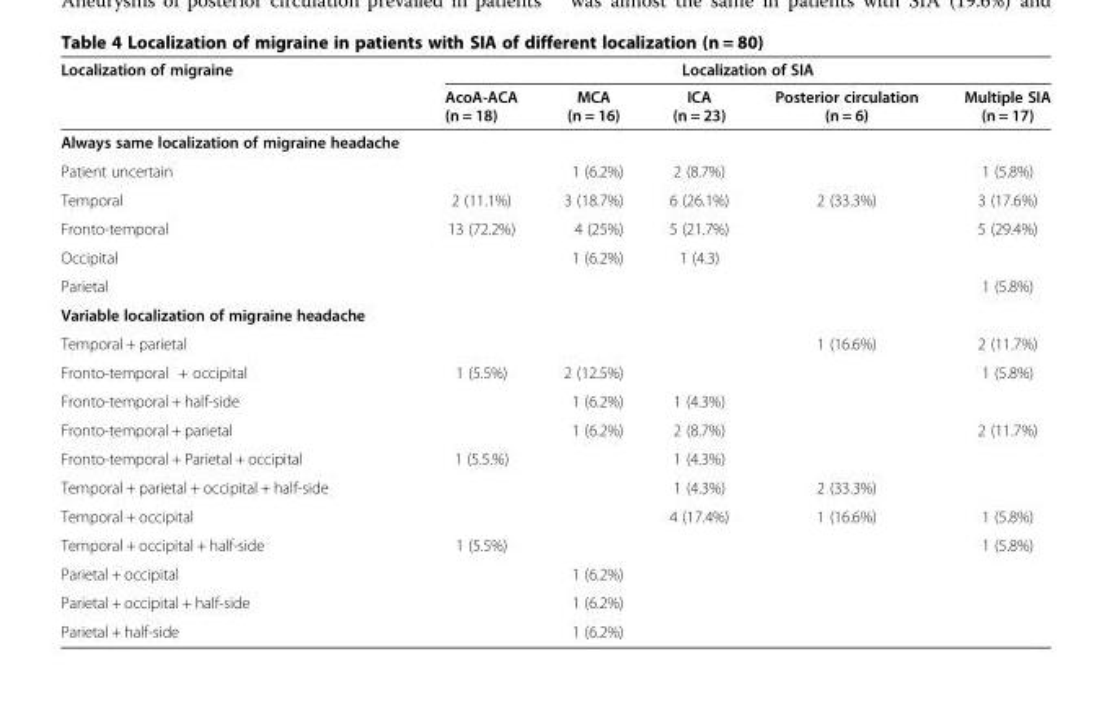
<table><thead><tr><td rowspan="2">Localization of migraine</td><td colspan="5">Localization of SIA</td></tr><tr><td>AcoA-ACA (n = 18)</td><td>MCA (n = 16)</td><td>ICA (n = 23)</td><td>Posterior circulation (n = 6)</td><td>Multiple SIA (n = 17)</td></tr></thead><tbody><tr><td colspan="6">Always same localization of migraine headache</td></tr><tr><td>Patient uncertain</td><td></td><td>1 (6.2%)</td><td>2 (8.7%)</td><td></td><td>1 (5.8%)</td></tr><tr><td>Temporal</td><td>2 (11.1%)</td><td>3 (18.7%)</td><td>6 (26.1%)</td><td>2 (33.3%)</td><td>3 (17.6%)</td></tr><tr><td>Fronto-temporal</td><td>13 (72.2%)</td><td>4 (25%)</td><td>5 (21.7%)</td><td></td><td>5 (29.4%)</td></tr><tr><td>Occipital</td><td></td><td>1 (6.2%)</td><td>1 (4.3)</td><td></td><td></td></tr><tr><td>Parietal</td><td></td><td></td><td></td><td></td><td>1 (5.8%)</td></tr><tr><td colspan="6">Variable localization of migraine headache</td></tr><tr><td>Temporal + parietal</td><td></td><td></td><td></td><td>1 (16.6%)</td><td>2 (11.7%)</td></tr><tr><td>Fronto-temporal + occipital</td><td>1 (5.5%)</td><td>2 (12.5%)</td><td></td><td></td><td>1 (5.8%)</td></tr><tr><td>Fronto-temporal + half-side</td><td></td><td>1 (6.2%)</td><td>1 (4.3%)</td><td></td><td></td></tr><tr><td>Fronto-temporal + parietal</td><td></td><td>1 (6.2%)</td><td>2 (8.7%)</td><td></td><td>2 (11.7%)</td></tr><tr><td>Fronto-temporal + Parietal + occipital</td><td>1 (5.5.%)</td><td></td><td>1 (4.3%)</td><td></td><td></td></tr><tr><td>Temporal + parietal + occipital + half-side</td><td></td><td></td><td>1 (4.3%)</td><td>2 (33.3%)</td><td></td></tr><tr><td>Temporal + occipital</td><td></td><td></td><td>4 (17.4%)</td><td>1 (16.6%)</td><td>1 (5.8%)</td></tr><tr><td>Temporal + occipital + half-side</td><td>1 (5.5%)</td><td></td><td></td><td></td><td>1 (5.8%)</td></tr><tr><td>Parietal + occipital</td><td></td><td>1 (6.2%)</td><td></td><td></td><td></td></tr><tr><td>Parietal + occipital + half-side</td><td></td><td>1 (6.2%)</td><td></td><td></td><td></td></tr><tr><td>Parietal + half-side</td><td></td><td>1 (6.2%)</td><td></td><td></td><td></td></tr></tbody></table>